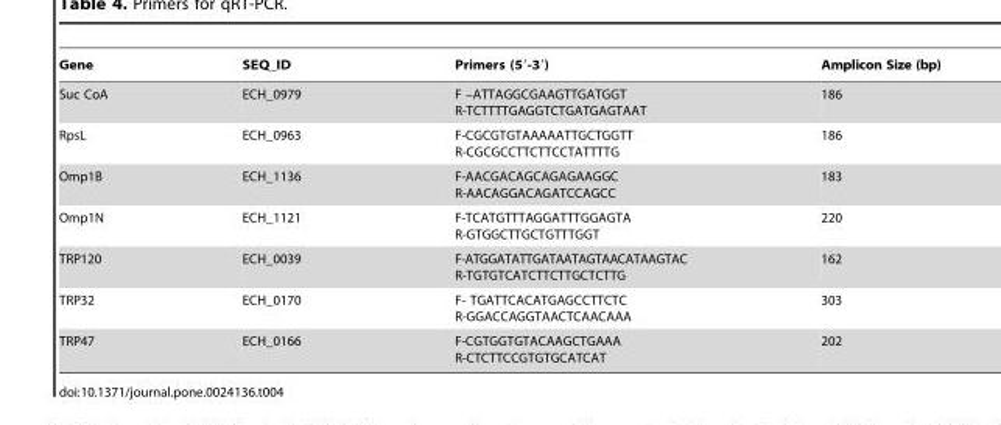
<table><thead><tr><td>Gene</td><td>SEQ_ID</td><td>Primers (5′-3′)</td><td>Amplicon Size (bp)</td></tr></thead><tbody><tr><td>Suc CoA</td><td>ECH_0979</td><td>F –ATTAGGCGAAGTTGATGGT R-TCTTTTGAGGTCTGATGAGTAAT</td><td>186</td></tr><tr><td>RpsL</td><td>ECH_0963</td><td>F-CGCGTGTAAAAATTGCTGGTT R-CGCGCCTTCTTCCTATTTTG</td><td>186</td></tr><tr><td>Omp1B</td><td>ECH_1136</td><td>F-AACGACAGCAGAGAAGGC R-AACAGGACAGATCCAGCC</td><td>183</td></tr><tr><td>Omp1N</td><td>ECH_1121</td><td>F-TCATGTTTAGGATTTGGAGTA R-GTGGCTTGCTGTTTGGT</td><td>220</td></tr><tr><td>TRP120</td><td>ECH_0039</td><td>F-ATGGATATTGATAATAGTAACATAAGTAC R-TGTGTCATCTTCTTGCTCTTG</td><td>162</td></tr><tr><td>TRP32</td><td>ECH_0170</td><td>F- TGATTCACATGAGCCTTCTC R-GGACCAGGTAACTCAACAAA</td><td>303</td></tr><tr><td>TRP47</td><td>ECH_0166</td><td>F-CGTGGTGTACAAGCTGAAA R-CTCTTCCGTGTGCATCAT</td><td>202</td></tr></tbody></table>